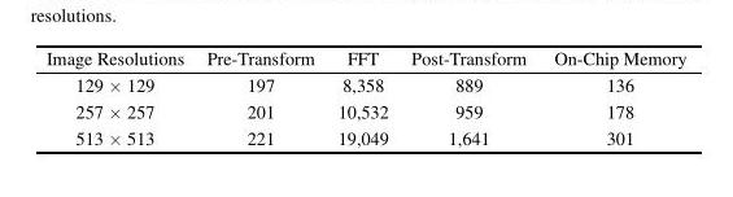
<table><thead><tr><td>Image Resolutions</td><td>Pre-Transform</td><td>FFT</td><td>Post-Transform</td><td>On-Chip Memory</td></tr></thead><tbody><tr><td>129 × 129</td><td>197</td><td>8,358</td><td>889</td><td>136</td></tr><tr><td>257 × 257</td><td>201</td><td>10,532</td><td>959</td><td>178</td></tr><tr><td>513 × 513</td><td>221</td><td>19,049</td><td>1,641</td><td>301</td></tr></tbody></table>